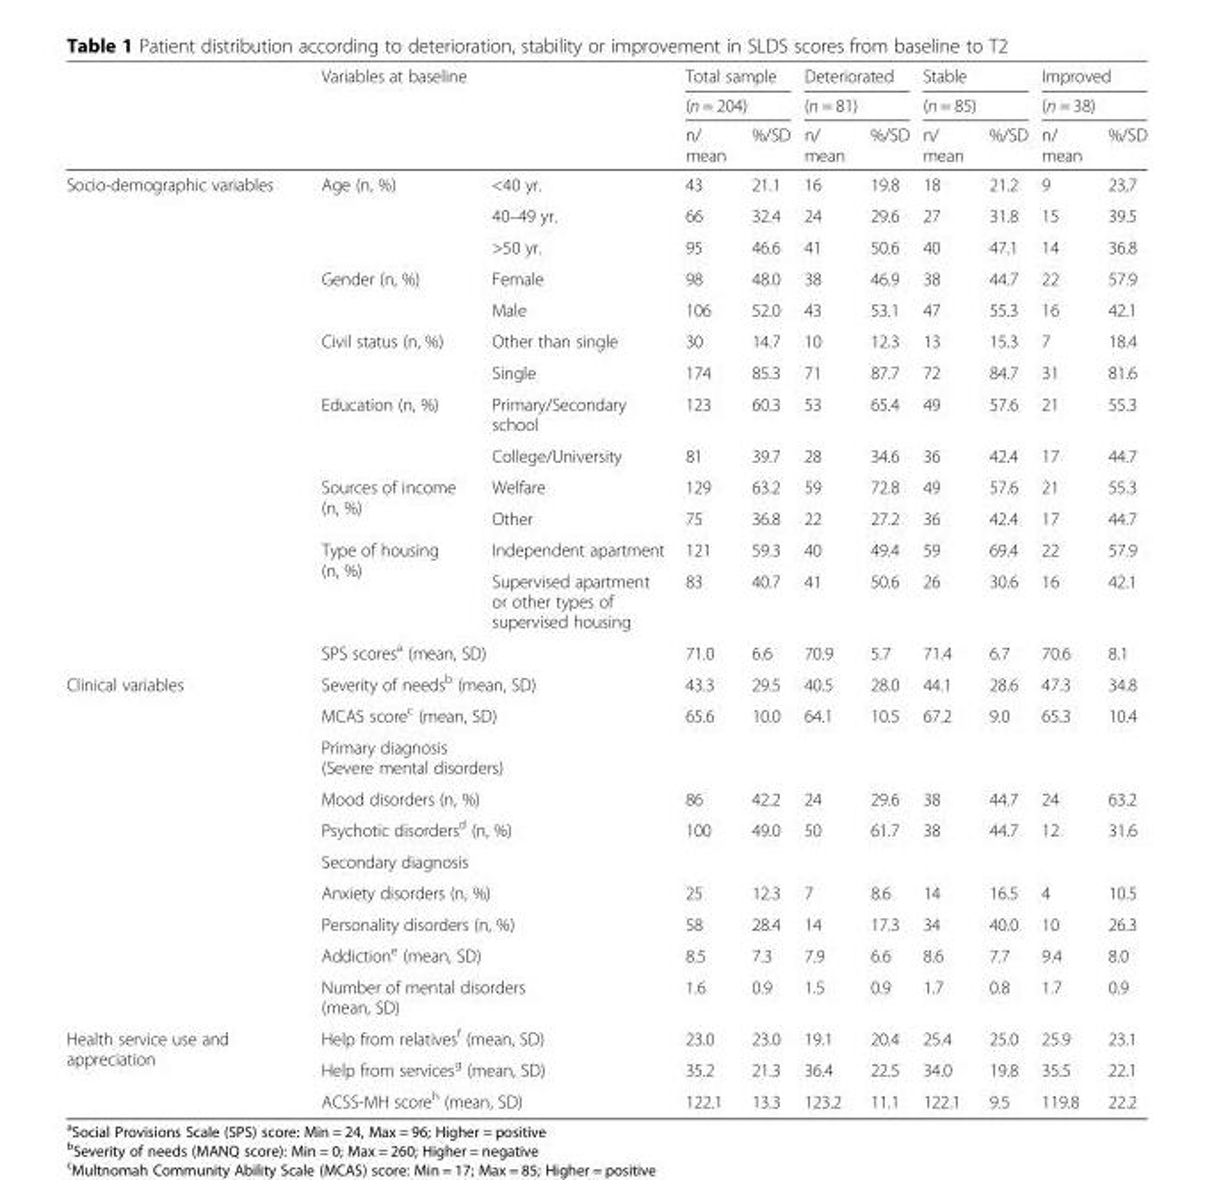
<table><thead><tr><td rowspan="3"></td><td rowspan="3">Variables at baseline</td><td rowspan="3"></td><td rowspan="2" colspan="2">Total sample (n = 204)</td><td rowspan="2" colspan="2">Deteriorated (n = 81)</td><td rowspan="2" colspan="2">Stable (n = 85)</td><td rowspan="2" colspan="2">Improved (n = 38)</td></tr><tr></tr><tr><td>n/ mean</td><td>%/SD</td><td>n/ mean</td><td>%/SD</td><td>n/ mean</td><td>%/SD</td><td>n/ mean</td><td>%/SD</td></tr></thead><tbody><tr><td rowspan="14">Socio-demographic variables</td><td rowspan="3">Age (n, %)</td><td>&lt;40 yr.</td><td>43</td><td>21.1</td><td>16</td><td>19.8</td><td>18</td><td>21.2</td><td>9</td><td>23,7</td></tr><tr><td>40–49 yr.</td><td>66</td><td>32.4</td><td>24</td><td>29.6</td><td>27</td><td>31.8</td><td>15</td><td>39.5</td></tr><tr><td>&gt;50 yr.</td><td>95</td><td>46.6</td><td>41</td><td>50.6</td><td>40</td><td>47.1</td><td>14</td><td>36.8</td></tr><tr><td rowspan="2">Gender (n, %)</td><td>Female</td><td>98</td><td>48.0</td><td>38</td><td>46.9</td><td>38</td><td>44.7</td><td>22</td><td>57.9</td></tr><tr><td>Male</td><td>106</td><td>52.0</td><td>43</td><td>53.1</td><td>47</td><td>55.3</td><td>16</td><td>42.1</td></tr><tr><td rowspan="2">Civil status (n, %)</td><td>Other than single</td><td>30</td><td>14.7</td><td>10</td><td>12.3</td><td>13</td><td>15.3</td><td>7</td><td>18.4</td></tr><tr><td>Single</td><td>174</td><td>85.3</td><td>71</td><td>87.7</td><td>72</td><td>84.7</td><td>31</td><td>81.6</td></tr><tr><td rowspan="2">Education (n, %)</td><td>Primary/Secondary school</td><td>123</td><td>60.3</td><td>53</td><td>65.4</td><td>49</td><td>57.6</td><td>21</td><td>55.3</td></tr><tr><td>College/University</td><td>81</td><td>39.7</td><td>28</td><td>34.6</td><td>36</td><td>42.4</td><td>17</td><td>44.7</td></tr><tr><td rowspan="2">Sources of income (n, %)</td><td>Welfare</td><td>129</td><td>63.2</td><td>59</td><td>72.8</td><td>49</td><td>57.6</td><td>21</td><td>55.3</td></tr><tr><td>Other</td><td>75</td><td>36.8</td><td>22</td><td>27.2</td><td>36</td><td>42.4</td><td>17</td><td>44.7</td></tr><tr><td rowspan="2">Type of housing (n, %)</td><td>Independent apartment</td><td>121</td><td>59.3</td><td>40</td><td>49.4</td><td>59</td><td>69.4</td><td>22</td><td>57.9</td></tr><tr><td>Supervised apartment or other types of supervised housing</td><td>83</td><td>40.7</td><td>41</td><td>50.6</td><td>26</td><td>30.6</td><td>16</td><td>42.1</td></tr><tr><td colspan="2">SPS scores<sup>a</sup> (mean, SD)</td><td>71.0</td><td>6.6</td><td>70.9</td><td>5.7</td><td>71.4</td><td>6.7</td><td>70.6</td><td>8.1</td></tr><tr><td rowspan="10">Clinical variables</td><td colspan="2">Severity of needs<sup>b</sup> (mean, SD)</td><td>43.3</td><td>29.5</td><td>40.5</td><td>28.0</td><td>44.1</td><td>28.6</td><td>47.3</td><td>34.8</td></tr><tr><td colspan="2">MCAS score<sup>c</sup> (mean, SD)</td><td>65.6</td><td>10.0</td><td>64.1</td><td>10.5</td><td>67.2</td><td>9.0</td><td>65.3</td><td>10.4</td></tr><tr><td colspan="2">Primary diagnosis (Severe mental disorders)</td><td></td><td></td><td></td><td></td><td></td><td></td><td></td><td></td></tr><tr><td colspan="2">Mood disorders (n, %)</td><td>86</td><td>42.2</td><td>24</td><td>29.6</td><td>38</td><td>44.7</td><td>24</td><td>63.2</td></tr><tr><td colspan="2">Psychotic disorders<sup>d</sup> (n, %)</td><td>100</td><td>49.0</td><td>50</td><td>61.7</td><td>38</td><td>44.7</td><td>12</td><td>31.6</td></tr><tr><td colspan="2">Secondary diagnosis</td><td></td><td></td><td></td><td></td><td></td><td></td><td></td><td></td></tr><tr><td colspan="2">Anxiety disorders (n, %)</td><td>25</td><td>12.3</td><td>7</td><td>8.6</td><td>14</td><td>16.5</td><td>4</td><td>10.5</td></tr><tr><td colspan="2">Personality disorders (n, %)</td><td>58</td><td>28.4</td><td>14</td><td>17.3</td><td>34</td><td>40.0</td><td>10</td><td>26.3</td></tr><tr><td colspan="2">Addiction<sup>e</sup> (mean, SD)</td><td>8.5</td><td>7.3</td><td>7.9</td><td>6.6</td><td>8.6</td><td>7.7</td><td>9.4</td><td>8.0</td></tr><tr><td colspan="2">Number of mental disorders (mean, SD)</td><td>1.6</td><td>0.9</td><td>1.5</td><td>0.9</td><td>1.7</td><td>0.8</td><td>1.7</td><td>0.9</td></tr><tr><td rowspan="3">Health service use and appreciation</td><td colspan="2">Help from relatives<sup>f</sup> (mean, SD)</td><td>23.0</td><td>23.0</td><td>19.1</td><td>20.4</td><td>25.4</td><td>25.0</td><td>25.9</td><td>23.1</td></tr><tr><td colspan="2">Help from services<sup>g</sup> (mean, SD)</td><td>35.2</td><td>21.3</td><td>36.4</td><td>22.5</td><td>34.0</td><td>19.8</td><td>35.5</td><td>22.1</td></tr><tr><td colspan="2">ACSS-MH score<sup>h</sup> (mean, SD)</td><td>122.1</td><td>13.3</td><td>123.2</td><td>11.1</td><td>122.1</td><td>9.5</td><td>119.8</td><td>22.2</td></tr></tbody></table>